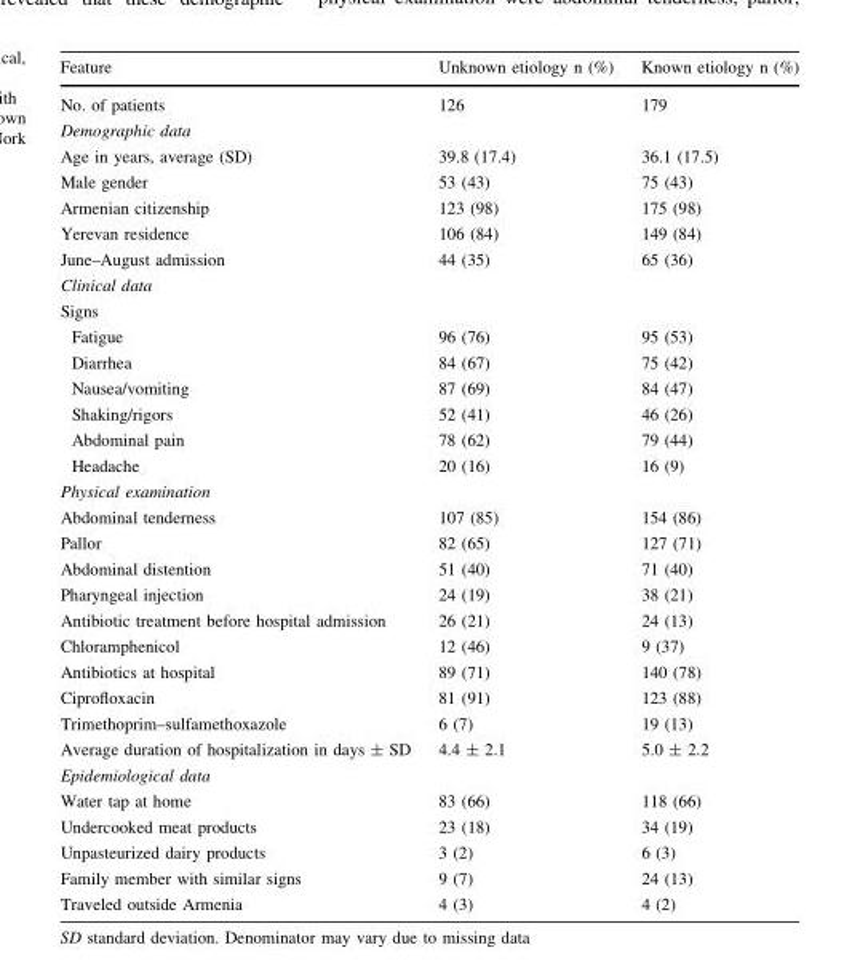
<table><thead><tr><td>Feature</td><td>Unknown etiology n (%)</td><td>Known etiology n (%)</td></tr></thead><tbody><tr><td>No. of patients</td><td>126</td><td>179</td></tr><tr><td colspan="3">Demographic data</td></tr><tr><td>Age in years, average (SD)</td><td>39.8 (17.4)</td><td>36.1 (17.5)</td></tr><tr><td>Male gender</td><td>53 (43)</td><td>75 (43)</td></tr><tr><td>Armenian citizenship</td><td>123 (98)</td><td>175 (98)</td></tr><tr><td>Yerevan residence</td><td>106 (84)</td><td>149 (84)</td></tr><tr><td>June–August admission</td><td>44 (35)</td><td>65 (36)</td></tr><tr><td colspan="3">Clinical data</td></tr><tr><td colspan="3">Signs</td></tr><tr><td>Fatigue</td><td>96 (76)</td><td>95 (53)</td></tr><tr><td>Diarrhea</td><td>84 (67)</td><td>75 (42)</td></tr><tr><td>Nausea/vomiting</td><td>87 (69)</td><td>84 (47)</td></tr><tr><td>Shaking/rigors</td><td>52 (41)</td><td>46 (26)</td></tr><tr><td>Abdominal pain</td><td>78 (62)</td><td>79 (44)</td></tr><tr><td>Headache</td><td>20 (16)</td><td>16 (9)</td></tr><tr><td colspan="3">Physical examination</td></tr><tr><td>Abdominal tenderness</td><td>107 (85)</td><td>154 (86)</td></tr><tr><td>Pallor</td><td>82 (65)</td><td>127 (71)</td></tr><tr><td>Abdominal distention</td><td>51 (40)</td><td>71 (40)</td></tr><tr><td>Pharyngeal injection</td><td>24 (19)</td><td>38 (21)</td></tr><tr><td>Antibiotic treatment before hospital admission</td><td>26 (21)</td><td>24 (13)</td></tr><tr><td>Chloramphenicol</td><td>12 (46)</td><td>9 (37)</td></tr><tr><td>Antibiotics at hospital</td><td>89 (71)</td><td>140 (78)</td></tr><tr><td>Ciprofloxacin</td><td>81 (91)</td><td>123 (88)</td></tr><tr><td>Trimethoprim–sulfamethoxazole</td><td>6 (7)</td><td>19 (13)</td></tr><tr><td>Average duration of hospitalization in days ± SD</td><td>4.4 ± 2.1</td><td>5.0 ± 2.2</td></tr><tr><td colspan="3">Epidemiological data</td></tr><tr><td>Water tap at home</td><td>83 (66)</td><td>118 (66)</td></tr><tr><td>Undercooked meat products</td><td>23 (18)</td><td>34 (19)</td></tr><tr><td>Unpasteurized dairy products</td><td>3 (2)</td><td>6 (3)</td></tr><tr><td>Family member with similar signs</td><td>9 (7)</td><td>24 (13)</td></tr><tr><td>Traveled outside Armenia</td><td>4 (3)</td><td>4 (2)</td></tr></tbody></table>